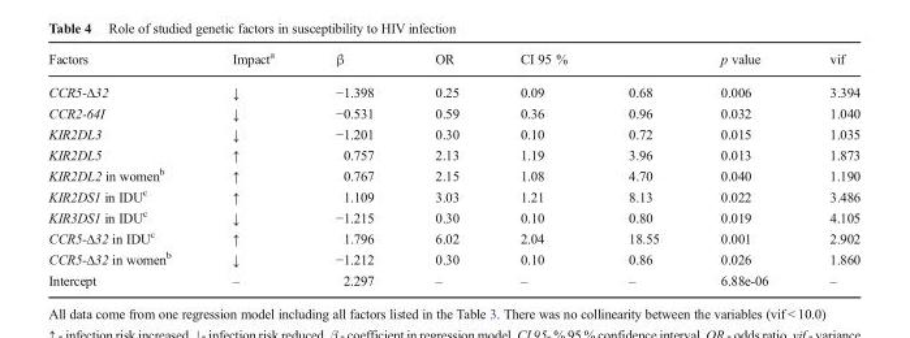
<table><thead><tr><td>Factors</td><td>Impact<sup>a</sup></td><td>β</td><td>OR</td><td>CI 95 %</td><td></td><td>p value</td><td>vif</td></tr></thead><tbody><tr><td>CCR5-Δ32</td><td>↓</td><td>−1.398</td><td>0.25</td><td>0.09</td><td>0.68</td><td>0.006</td><td>3.394</td></tr><tr><td>CCR2-64I</td><td>↓</td><td>−0.531</td><td>0.59</td><td>0.36</td><td>0.96</td><td>0.032</td><td>1.040</td></tr><tr><td>KIR2DL3</td><td>↓</td><td>−1.201</td><td>0.30</td><td>0.10</td><td>0.72</td><td>0.015</td><td>1.035</td></tr><tr><td>KIR2DL5</td><td>↑</td><td>0.757</td><td>2.13</td><td>1.19</td><td>3.96</td><td>0.013</td><td>1.873</td></tr><tr><td>KIR2DL2 in women<sup>b</sup></td><td>↑</td><td>0.767</td><td>2.15</td><td>1.08</td><td>4.70</td><td>0.040</td><td>1.190</td></tr><tr><td>KIR2DS1 in IDU<sup>c</sup></td><td>↑</td><td>1.109</td><td>3.03</td><td>1.21</td><td>8.13</td><td>0.022</td><td>3.486</td></tr><tr><td>KIR3DS1 in IDU<sup>c</sup></td><td>↓</td><td>−1.215</td><td>0.30</td><td>0.10</td><td>0.80</td><td>0.019</td><td>4.105</td></tr><tr><td>CCR5-Δ32 in IDUc</td><td>↑</td><td>1.796</td><td>6.02</td><td>2.04</td><td>18.55</td><td>0.001</td><td>2.902</td></tr><tr><td>CCR5-Δ32 in womenb</td><td>↓</td><td>−1.212</td><td>0.30</td><td>0.10</td><td>0.86</td><td>0.026</td><td>1.860</td></tr><tr><td>Intercept</td><td>–</td><td>2.297</td><td>–</td><td>–</td><td>–</td><td>6.88e-06</td><td>–</td></tr></tbody></table>